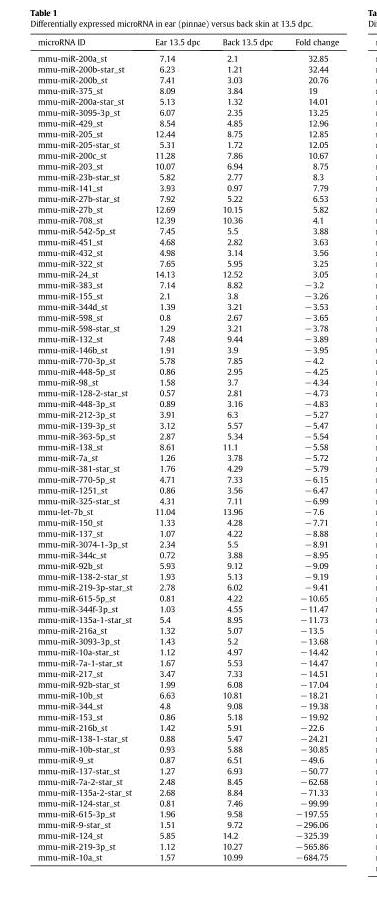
<table><thead><tr><td>microRNA ID</td><td>Ear 13.5 dpc</td><td>Back 13.5 dpc</td><td>Fold change</td></tr></thead><tbody><tr><td>mmu-miR-200a_st</td><td>7.14</td><td>2.1</td><td>32.85</td></tr><tr><td>mmu-miR-200b-star_st</td><td>6.23</td><td>1.21</td><td>32.44</td></tr><tr><td>mmu-miR-200b_st</td><td>7.41</td><td>3.03</td><td>20.76</td></tr><tr><td>mmu-miR-375_st</td><td>8.09</td><td>3.84</td><td>19</td></tr><tr><td>mmu-miR-200a-star_st</td><td>5.13</td><td>1.32</td><td>14.01</td></tr><tr><td>mmu-miR-3095-3p_st</td><td>6.07</td><td>2.35</td><td>13.25</td></tr><tr><td>mmu-miR-429_st</td><td>8.54</td><td>4.85</td><td>12.96</td></tr><tr><td>mmu-miR-205_st</td><td>12.44</td><td>8.75</td><td>12.85</td></tr><tr><td>mmu-miR-205-star_st</td><td>5.31</td><td>1.72</td><td>12.05</td></tr><tr><td>mmu-miR-200c_st</td><td>11.28</td><td>7.86</td><td>10.67</td></tr><tr><td>mmu-miR-203_st</td><td>10.07</td><td>6.94</td><td>8.75</td></tr><tr><td>mmu-miR-23b-star_st</td><td>5.82</td><td>2.77</td><td>8.3</td></tr><tr><td>mmu-miR-141_st</td><td>3.93</td><td>0.97</td><td>7.79</td></tr><tr><td>mmu-miR-27b-star_st</td><td>7.92</td><td>5.22</td><td>6.53</td></tr><tr><td>mmu-miR-27b_st</td><td>12.69</td><td>10.15</td><td>5.82</td></tr><tr><td>mmu-miR-708_st</td><td>12.39</td><td>10.36</td><td>4.1</td></tr><tr><td>mmu-miR-542-5p_st</td><td>7.45</td><td>5.5</td><td>3.88</td></tr><tr><td>mmu-miR-451_st</td><td>4.68</td><td>2.82</td><td>3.63</td></tr><tr><td>mmu-miR-432_st</td><td>4.98</td><td>3.14</td><td>3.56</td></tr><tr><td>mmu-miR-322_st</td><td>7.65</td><td>5.95</td><td>3.25</td></tr><tr><td>mmu-miR-24_st</td><td>14.13</td><td>12.52</td><td>3.05</td></tr><tr><td>mmu-miR-383_st</td><td>7.14</td><td>8.82</td><td>−3.2</td></tr><tr><td>mmu-miR-155_st</td><td>2.1</td><td>3.8</td><td>−3.26</td></tr><tr><td>mmu-miR-344d_st</td><td>1.39</td><td>3.21</td><td>−3.53</td></tr><tr><td>mmu-miR-598_st</td><td>0.8</td><td>2.67</td><td>−3.65</td></tr><tr><td>mmu-miR-598-star_st</td><td>1.29</td><td>3.21</td><td>−3.78</td></tr><tr><td>mmu-miR-132_st</td><td>7.48</td><td>9.44</td><td>−3.89</td></tr><tr><td>mmu-miR-146b_st</td><td>1.91</td><td>3.9</td><td>−3.95</td></tr><tr><td>mmu-miR-770-3p_st</td><td>5.78</td><td>7.85</td><td>−4.2</td></tr><tr><td>mmu-miR-448-5p_st</td><td>0.86</td><td>2.95</td><td>−4.25</td></tr><tr><td>mmu-miR-98_st</td><td>1.58</td><td>3.7</td><td>−4.34</td></tr><tr><td>mmu-miR-128-2-star_st</td><td>0.57</td><td>2.81</td><td>−4.73</td></tr><tr><td>mmu-miR-448-3p_st</td><td>0.89</td><td>3.16</td><td>−4.83</td></tr><tr><td>mmu-miR-212-3p_st</td><td>3.91</td><td>6.3</td><td>−5.27</td></tr><tr><td>mmu-miR-139-3p_st</td><td>3.12</td><td>5.57</td><td>−5.47</td></tr><tr><td>mmu-miR-363-5p_st</td><td>2.87</td><td>5.34</td><td>−5.54</td></tr><tr><td>mmu-miR-138_st</td><td>8.61</td><td>11.1</td><td>−5.58</td></tr><tr><td>mmu-miR-7a_st</td><td>1.26</td><td>3.78</td><td>−5.72</td></tr><tr><td>mmu-miR-381-star_st</td><td>1.76</td><td>4.29</td><td>−5.79</td></tr><tr><td>mmu-miR-770-5p_st</td><td>4.71</td><td>7.33</td><td>−6.15</td></tr><tr><td>mmu-miR-1251_st</td><td>0.86</td><td>3.56</td><td>−6.47</td></tr><tr><td>mmu-miR-325-star_st</td><td>4.31</td><td>7.11</td><td>−6.99</td></tr><tr><td>mmu-let-7b_st</td><td>11.04</td><td>13.96</td><td>−7.6</td></tr><tr><td>mmu-miR-150_st</td><td>1.33</td><td>4.28</td><td>−7.71</td></tr><tr><td>mmu-miR-137_st</td><td>1.07</td><td>4.22</td><td>−8.88</td></tr><tr><td>mmu-miR-3074-1-3p_st</td><td>2.34</td><td>5.5</td><td>−8.91</td></tr><tr><td>mmu-miR-344c_st</td><td>0.72</td><td>3.88</td><td>−8.95</td></tr><tr><td>mmu-miR-92b_st</td><td>5.93</td><td>9.12</td><td>−9.09</td></tr><tr><td>mmu-miR-138-2-star_st</td><td>1.93</td><td>5.13</td><td>−9.19</td></tr><tr><td>mmu-miR-219-3p-star_st</td><td>2.78</td><td>6.02</td><td>−9.41</td></tr><tr><td>mmu-miR-615-5p_st</td><td>0.81</td><td>4.22</td><td>−10.65</td></tr><tr><td>mmu-miR-344f-3p_st</td><td>1.03</td><td>4.55</td><td>−11.47</td></tr><tr><td>mmu-miR-135a-1-star_st</td><td>5.4</td><td>8.95</td><td>−11.73</td></tr><tr><td>mmu-miR-216a_st</td><td>1.32</td><td>5.07</td><td>−13.5</td></tr><tr><td>mmu-miR-3093-3p_st</td><td>1.43</td><td>5.2</td><td>−13.68</td></tr><tr><td>mmu-miR-10a-star_st</td><td>1.12</td><td>4.97</td><td>−14.42</td></tr><tr><td>mmu-miR-7a-1-star_st</td><td>1.67</td><td>5.53</td><td>−14.47</td></tr><tr><td>mmu-miR-217_st</td><td>3.47</td><td>7.33</td><td>−14.51</td></tr><tr><td>mmu-miR-92b-star_st</td><td>1.99</td><td>6.08</td><td>−17.04</td></tr><tr><td>mmu-miR-10b_st</td><td>6.63</td><td>10.81</td><td>−18.21</td></tr><tr><td>mmu-miR-344_st</td><td>4.8</td><td>9.08</td><td>−19.38</td></tr><tr><td>mmu-miR-153_st</td><td>0.86</td><td>5.18</td><td>−19.92</td></tr><tr><td>mmu-miR-216b_st</td><td>1.42</td><td>5.91</td><td>−22.6</td></tr><tr><td>mmu-miR-138-1-star_st</td><td>0.88</td><td>5.47</td><td>−24.21</td></tr><tr><td>mmu-miR-10b-star_st</td><td>0.93</td><td>5.88</td><td>−30.85</td></tr><tr><td>mmu-miR-9_st</td><td>0.87</td><td>6.51</td><td>−49.6</td></tr><tr><td>mmu-miR-137-star_st</td><td>1.27</td><td>6.93</td><td>−50.77</td></tr><tr><td>mmu-miR-7a-2-star_st</td><td>2.48</td><td>8.45</td><td>−62.68</td></tr><tr><td>mmu-miR-135a-2-star_st</td><td>2.68</td><td>8.84</td><td>−71.33</td></tr><tr><td>mmu-miR-124-star_st</td><td>0.81</td><td>7.46</td><td>−99.99</td></tr><tr><td>mmu-miR-615-3p_st</td><td>1.96</td><td>9.58</td><td>−197.55</td></tr><tr><td>mmu-miR-9-star_st</td><td>1.51</td><td>9.72</td><td>−296.06</td></tr><tr><td>mmu-miR-124_st</td><td>5.85</td><td>14.2</td><td>−325.39</td></tr><tr><td>mmu-miR-219-3p_st</td><td>1.12</td><td>10.27</td><td>−565.86</td></tr><tr><td>mmu-miR-10a_st</td><td>1.57</td><td>10.99</td><td>−684.75</td></tr></tbody></table>